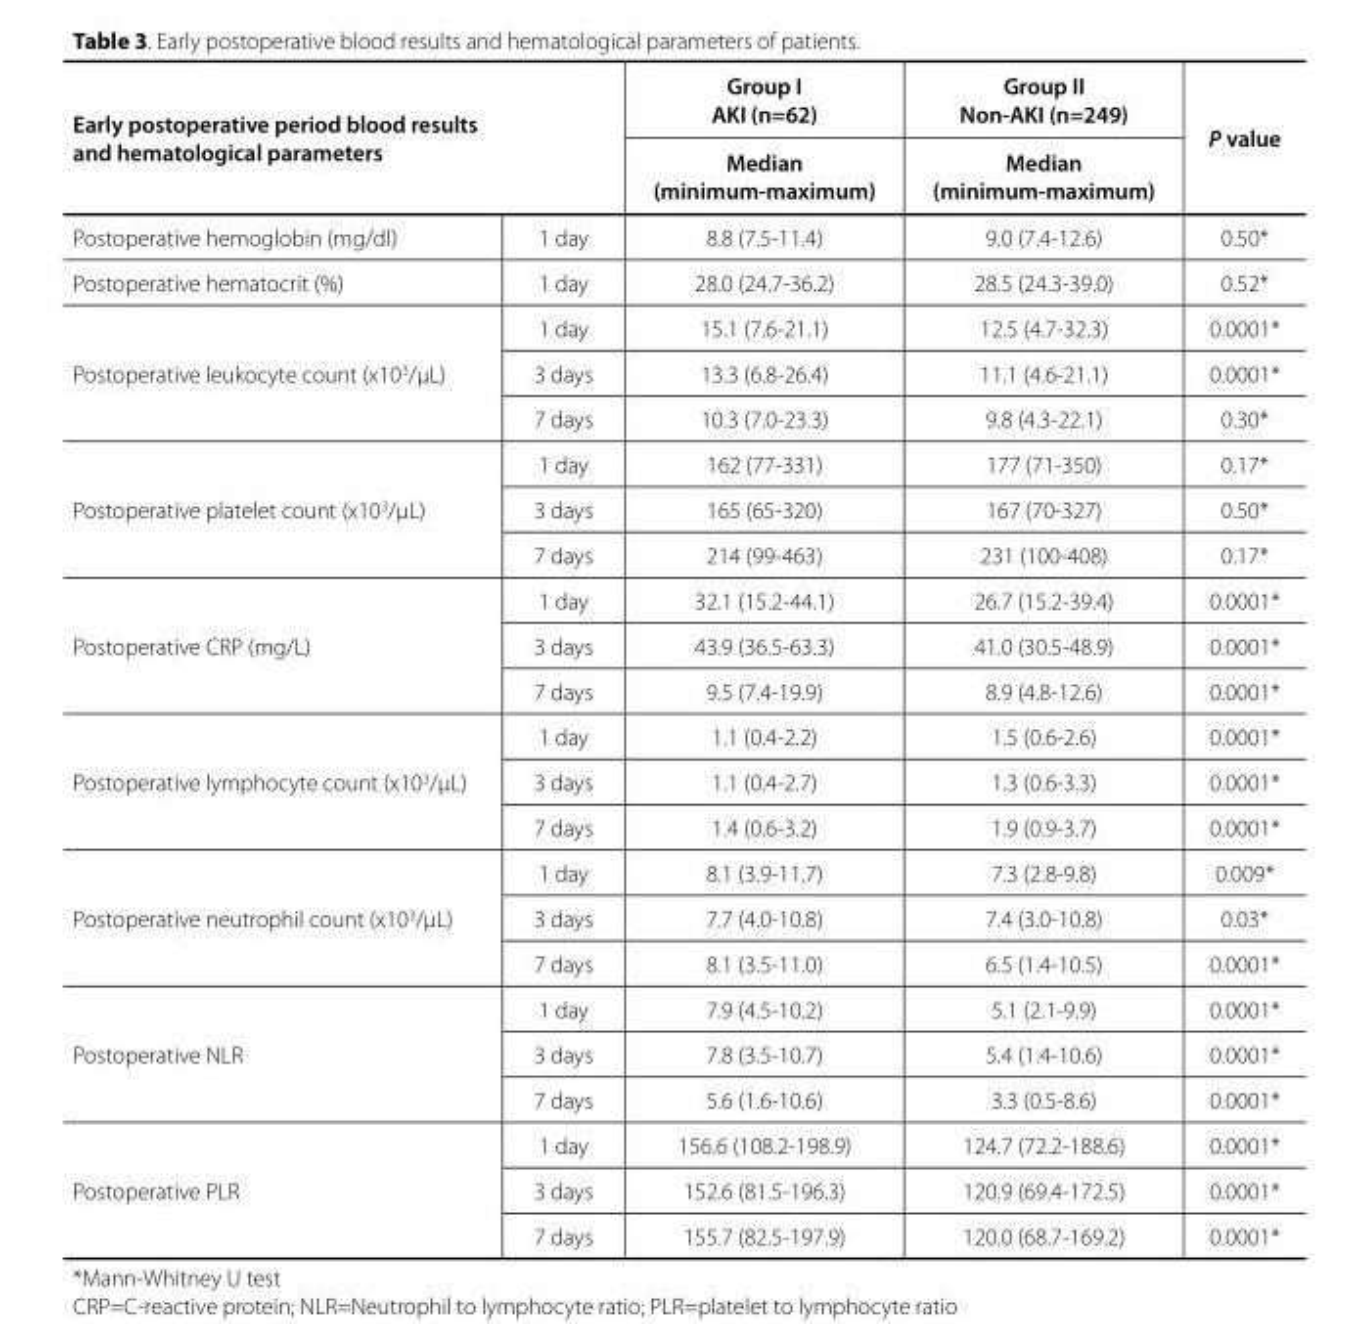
<table><thead><tr><td rowspan="2" colspan="2">Early postoperative period blood results and hematological parameters</td><td rowspan="3">Group I AKI (n=62) Median (minimum-maximum) 8.8 (7.5-11.4)</td><td rowspan="3">Group II Non-AKI (n=249) Median (minimum-maximum) 9.0 (7.4-12.6)</td><td rowspan="3">P value 0.50*</td></tr><tr></tr><tr><td>Postoperative hemoglobin (mg/dl)</td><td>1 day</td></tr></thead><tbody><tr><td>Postoperative hematocrit (%)</td><td>1 day</td><td>28.0 (24.7-36.2)</td><td>28.5 (24.3-39.0)</td><td>0.52*</td></tr><tr><td rowspan="3">Postoperative leukocyte count (x10<sup>3</sup>/µL)</td><td>1 day</td><td>15.1 (7.6-21.1)</td><td>12.5 (4.7-32.3)</td><td>0.0001*</td></tr><tr><td>3 days</td><td>13.3 (6.8-26.4)</td><td>11.1 (4.6-21.1)</td><td>0.0001*</td></tr><tr><td>7 days</td><td>10.3 (7.0-23.3)</td><td>9.8 (4.3-22.1)</td><td>0.30*</td></tr><tr><td rowspan="3">Postoperative platelet count (x10<sup>3</sup>/µL)</td><td>1 day</td><td>162 (77-331)</td><td>177 (71-350)</td><td>0.17*</td></tr><tr><td>3 days</td><td>165 (65-320)</td><td>167 (70-327)</td><td>0.50*</td></tr><tr><td>7 days</td><td>214 (99-463)</td><td>231 (100-408)</td><td>0.17*</td></tr><tr><td rowspan="3">Postoperative CRP (mg/L)</td><td>1 day</td><td>32.1 (15.2-44.1)</td><td>26.7 (15.2-39.4)</td><td>0.0001*</td></tr><tr><td>3 days</td><td>43.9 (36.5-63.3)</td><td>41.0 (30.5-48.9)</td><td>0.0001*</td></tr><tr><td>7 days</td><td>9.5 (7.4-19.9)</td><td>8.9 (4.8-12.6)</td><td>0.0001*</td></tr><tr><td rowspan="3">Postoperative lymphocyte count (x10<sup>3</sup>/µL)</td><td>1 day</td><td>1.1 (0.4-2.2)</td><td>1.5 (0.6-2.6)</td><td>0.0001*</td></tr><tr><td>3 days</td><td>1.1 (0.4-2.7)</td><td>1.3 (0.6-3.3)</td><td>0.0001*</td></tr><tr><td>7 days</td><td>1.4 (0.6-3.2)</td><td>1.9 (0.9-3.7)</td><td>0.0001*</td></tr><tr><td rowspan="3">Postoperative neutrophil count (x10<sup>3</sup>/µL)</td><td>1 day</td><td>8.1 (3.9-11.7)</td><td>7.3 (2.8-9.8)</td><td>0.009*</td></tr><tr><td>3 days</td><td>7.7 (4.0-10.8)</td><td>7.4 (3.0-10.8)</td><td>0.03*</td></tr><tr><td>7 days</td><td>8.1 (3.5-11.0)</td><td>6.5 (1.4-10.5)</td><td>0.0001*</td></tr><tr><td rowspan="3">Postoperative NLR</td><td>1 day</td><td>7.9 (4.5-10.2)</td><td>5.1 (2.1-9.9)</td><td>0.0001*</td></tr><tr><td>3 days</td><td>7.8 (3.5-10.7)</td><td>5.4 (1.4-10.6)</td><td>0.0001*</td></tr><tr><td>7 days</td><td>5.6 (1.6-10.6)</td><td>3.3 (0.5-8.6)</td><td>0.0001*</td></tr><tr><td rowspan="3">Postoperative PLR</td><td>1 day</td><td>156.6 (108.2-198.9)</td><td>124.7 (72.2-188.6)</td><td>0.0001*</td></tr><tr><td>3 days</td><td>152.6 (81.5-196.3)</td><td>120.9 (69.4-172.5)</td><td>0.0001*</td></tr><tr><td>7 days</td><td>155.7 (82.5-197.9)</td><td>120.0 (68.7-169.2)</td><td>0.0001*</td></tr></tbody></table>